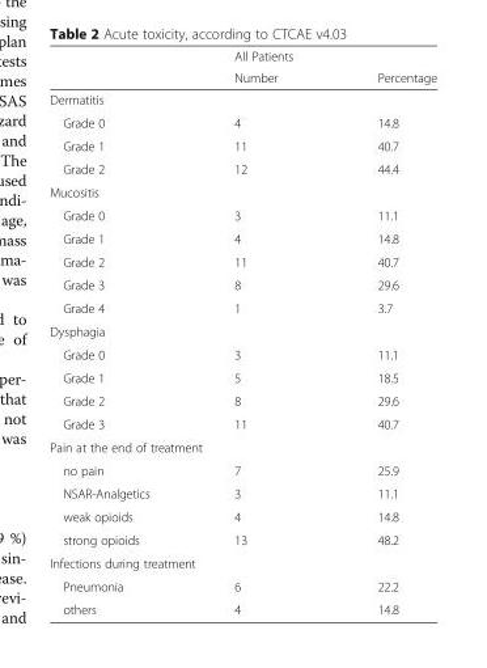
<table><thead><tr><td rowspan="2"></td><td rowspan="2">All Patients Number</td><td rowspan="2">Percentage</td></tr><tr></tr></thead><tbody><tr><td colspan="3">Dermatitis</td></tr><tr><td>Grade 0</td><td>4</td><td>14.8</td></tr><tr><td>Grade 1</td><td>11</td><td>40.7</td></tr><tr><td>Grade 2</td><td>12</td><td>44.4</td></tr><tr><td colspan="3">Mucositis</td></tr><tr><td>Grade 0</td><td>3</td><td>11.1</td></tr><tr><td>Grade 1</td><td>4</td><td>14.8</td></tr><tr><td>Grade 2</td><td>11</td><td>40.7</td></tr><tr><td>Grade 3</td><td>8</td><td>29.6</td></tr><tr><td>Grade 4</td><td>1</td><td>3.7</td></tr><tr><td colspan="3">Dysphagia</td></tr><tr><td>Grade 0</td><td>3</td><td>11.1</td></tr><tr><td>Grade 1</td><td>5</td><td>18.5</td></tr><tr><td>Grade 2</td><td>8</td><td>29.6</td></tr><tr><td>Grade 3</td><td>11</td><td>40.7</td></tr><tr><td colspan="3">Pain at the end of treatment</td></tr><tr><td>no pain</td><td>7</td><td>25.9</td></tr><tr><td>NSAR-Analgetics</td><td>3</td><td>11.1</td></tr><tr><td>weak opioids</td><td>4</td><td>14.8</td></tr><tr><td>strong opioids</td><td>13</td><td>48.2</td></tr><tr><td colspan="3">Infections during treatment</td></tr><tr><td>Pneumonia</td><td>6</td><td>22.2</td></tr><tr><td>others</td><td>4</td><td>14.8</td></tr></tbody></table>